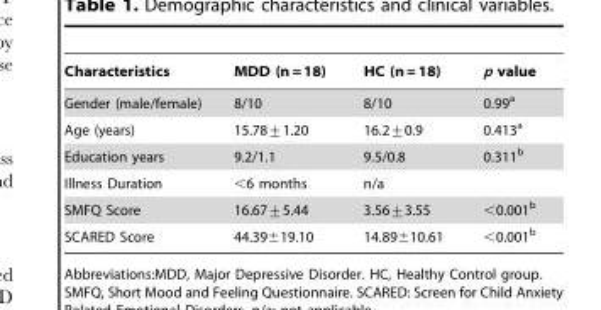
<table><thead><tr><td>Characteristics</td><td>MDD (n = 18)</td><td>HC (n = 18)</td><td>p value</td></tr></thead><tbody><tr><td>Gender (male/female)</td><td>8/10</td><td>8/10</td><td>0.99<sup>a</sup></td></tr><tr><td>Age (years)</td><td>15.78+1.20</td><td>16.2+0.9</td><td>0.413<sup>a</sup></td></tr><tr><td>Education years</td><td>9.2/1.1</td><td>9.5/0.8</td><td>0.311<sup>b</sup></td></tr><tr><td>Illness Duration</td><td>&lt;6 months</td><td>n/a</td><td></td></tr><tr><td>SMFQ Score</td><td>16.67+5.44</td><td>3.56+3.55</td><td>&lt;0.001<sup>b</sup></td></tr><tr><td>SCARED Score</td><td>44.39±19.10</td><td>14.89±10.61</td><td>&lt;0.001<sup>b</sup></td></tr></tbody></table>